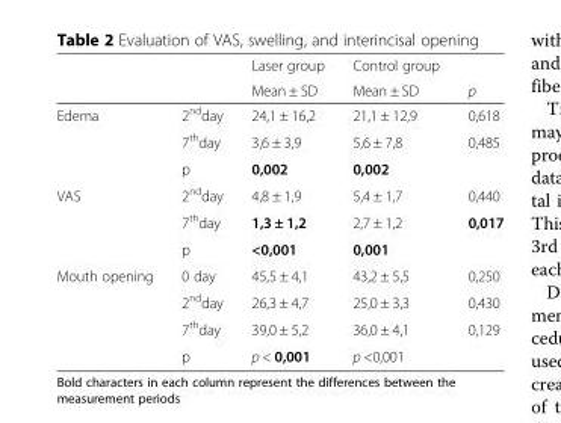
<table><thead><tr><td rowspan="2"></td><td rowspan="2"></td><td rowspan="2">Laser group Mean ± SD</td><td rowspan="2">Control group Mean ± SD</td><td rowspan="2">p</td></tr><tr></tr></thead><tbody><tr><td rowspan="3">Edema</td><td>2<sup>nd</sup>day</td><td>24,1 ± 16,2</td><td>21,1 ± 12,9</td><td>0,618</td></tr><tr><td>7<sup>th</sup>day</td><td>3,6 ± 3,9</td><td>5,6 ± 7,8</td><td>0,485</td></tr><tr><td>p</td><td>0,002</td><td>0,002</td><td></td></tr><tr><td rowspan="3">VAS</td><td>2<sup>nd</sup>day</td><td>4,8 ± 1,9</td><td>5,4 ± 1,7</td><td>0,440</td></tr><tr><td>7<sup>th</sup>day</td><td>1,3 ± 1,2</td><td>2,7 ± 1,2</td><td>0,017</td></tr><tr><td>p</td><td>&lt;0,001</td><td>0,001</td><td></td></tr><tr><td rowspan="4">Mouth opening</td><td>0 day</td><td>45,5 ± 4,1</td><td>43,2 ± 5,5</td><td>0,250</td></tr><tr><td>2<sup>nd</sup>day</td><td>26,3 ± 4,7</td><td>25,0 ± 3,3</td><td>0,430</td></tr><tr><td>7<sup>th</sup>day</td><td>39,0 ± 5,2</td><td>36,0 ± 4,1</td><td>0,129</td></tr><tr><td>p</td><td>p &lt; 0,001</td><td>p &lt;0,001</td><td></td></tr></tbody></table>